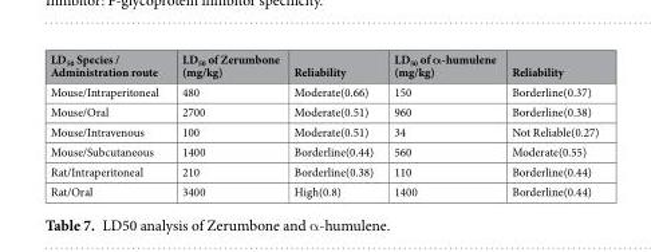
<table><thead><tr><td>LD<sub>50</sub> Species / Administration route</td><td>LD<sub>50</sub> of Zerumbone (mg/kg)</td><td>Reliability</td><td>LD<sub>50</sub> of α-humulene (mg/kg)</td><td>Reliability</td></tr></thead><tbody><tr><td>Mouse/Intraperitoneal</td><td>480</td><td>Moderate(0.66)</td><td>150</td><td>Borderline(0.37)</td></tr><tr><td>Mouse/Oral</td><td>2700</td><td>Moderate(0.51)</td><td>960</td><td>Borderline(0.38)</td></tr><tr><td>Mouse/Intravenous</td><td>100</td><td>Moderate(0.51)</td><td>34</td><td>Not Reliable(0.27)</td></tr><tr><td>Mouse/Subcutaneous</td><td>1400</td><td>Borderline(0.44)</td><td>560</td><td>Moderate(0.55)</td></tr><tr><td>Rat/Intraperitoneal</td><td>210</td><td>Borderline(0.38)</td><td>110</td><td>Borderline(0.44)</td></tr><tr><td>Rat/Oral</td><td>3400</td><td>High(0.8)</td><td>1400</td><td>Borderline(0.44)</td></tr></tbody></table>